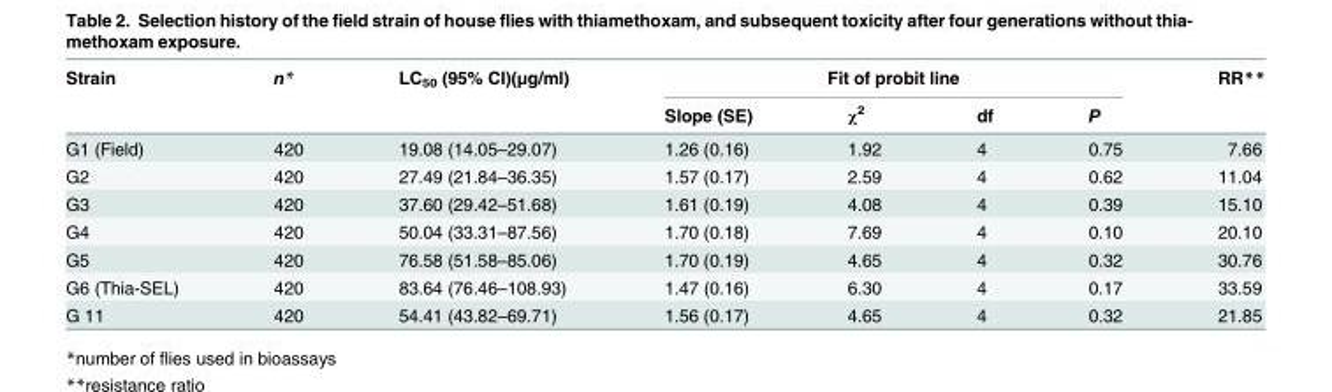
<table><thead><tr><td rowspan="2">Strain</td><td rowspan="2">n*</td><td rowspan="2">LC<sub>50</sub> (95% CI)(μg/ml)</td><td colspan="4">Fit of probit line</td><td rowspan="2">RR**</td></tr><tr><td>Slope (SE)</td><td>χ<sup>2</sup></td><td>df</td><td>P</td></tr></thead><tbody><tr><td>G1 (Field)</td><td>420</td><td>19.08 (14.05–29.07)</td><td>1.26 (0.16)</td><td>1.92</td><td>4</td><td>0.75</td><td>7.66</td></tr><tr><td>G2</td><td>420</td><td>27.49 (21.84–36.35)</td><td>1.57 (0.17)</td><td>2.59</td><td>4</td><td>0.62</td><td>11.04</td></tr><tr><td>G3</td><td>420</td><td>37.60 (29.42–51.68)</td><td>1.61 (0.19)</td><td>4.08</td><td>4</td><td>0.39</td><td>15.10</td></tr><tr><td>G4</td><td>420</td><td>50.04 (33.31–87.56)</td><td>1.70 (0.18)</td><td>7.69</td><td>4</td><td>0.10</td><td>20.10</td></tr><tr><td>G5</td><td>420</td><td>76.58 (51.58–85.06)</td><td>1.70 (0.19)</td><td>4.65</td><td>4</td><td>0.32</td><td>30.76</td></tr><tr><td>G6 (Thia-SEL)</td><td>420</td><td>83.64 (76.46–108.93)</td><td>1.47 (0.16)</td><td>6.30</td><td>4</td><td>0.17</td><td>33.59</td></tr><tr><td>G 11</td><td>420</td><td>54.41 (43.82–69.71)</td><td>1.56 (0.17)</td><td>4.65</td><td>4</td><td>0.32</td><td>21.85</td></tr></tbody></table>